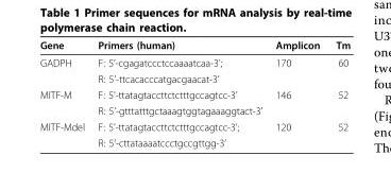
<table><thead><tr><td>Gene</td><td>Primers (human)</td><td>Amplicon</td><td>Tm</td></tr></thead><tbody><tr><td rowspan="2">GADPH</td><td>F: 5’-cgagatccctccaaaatcaa-3’;</td><td>170</td><td>60</td></tr><tr><td>R: 5’-ttcacacccatgacgaacat-3’</td><td></td><td></td></tr><tr><td rowspan="2">MITF-M</td><td>F: 5’-ttatagtaccttctctttgccagtcc-3’</td><td>146</td><td>52</td></tr><tr><td>R: 5’-gtttatttgctaaagtggtagaaaggtact-3’</td><td></td><td></td></tr><tr><td rowspan="2">MITF-Mdel</td><td>F: 5’-ttatagtaccttctctttgccagtcc-3’;</td><td>120</td><td>52</td></tr><tr><td>R: 5’-cttataaaatccctgccgttgg-3’</td><td></td><td></td></tr></tbody></table>